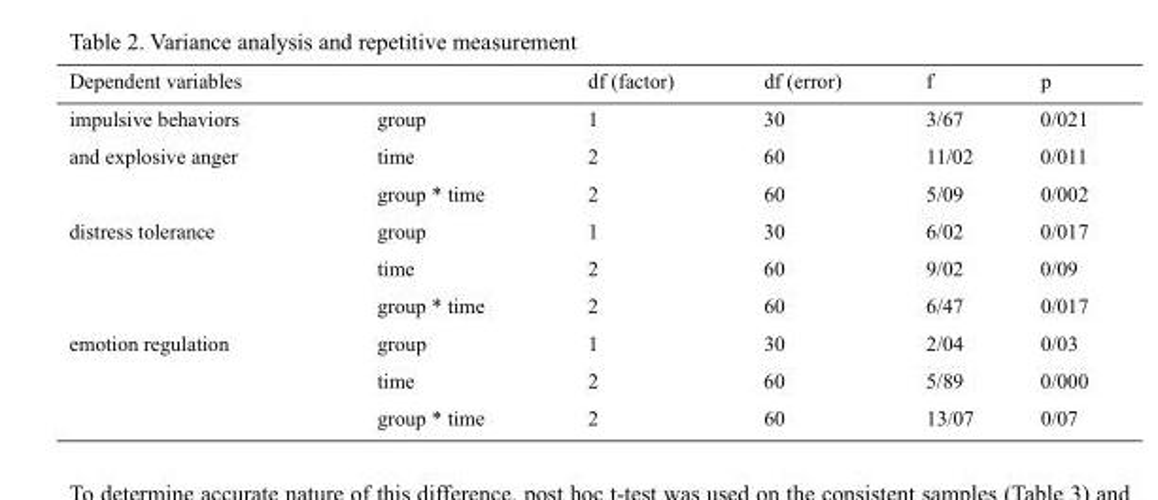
<table><thead><tr><td>Dependent variables</td><td></td><td>df (factor)</td><td>df (error)</td><td>f</td><td>p</td></tr></thead><tbody><tr><td rowspan="3">impulsive behaviors and explosive anger</td><td>group</td><td>1</td><td>30</td><td>3/67</td><td>0/021</td></tr><tr><td>time</td><td>2</td><td>60</td><td>11/02</td><td>0/011</td></tr><tr><td>group * time</td><td>2</td><td>60</td><td>5/09</td><td>0/002</td></tr><tr><td rowspan="3">distress tolerance</td><td>group</td><td>1</td><td>30</td><td>6/02</td><td>0/017</td></tr><tr><td>time</td><td>2</td><td>60</td><td>9/02</td><td>0/09</td></tr><tr><td>group * time</td><td>2</td><td>60</td><td>6/47</td><td>0/017</td></tr><tr><td rowspan="3">emotion regulation</td><td>group</td><td>1</td><td>30</td><td>2/04</td><td>0/03</td></tr><tr><td>time</td><td>2</td><td>60</td><td>5/89</td><td>0/000</td></tr><tr><td>group * time</td><td>2</td><td>60</td><td>13/07</td><td>0/07</td></tr></tbody></table>